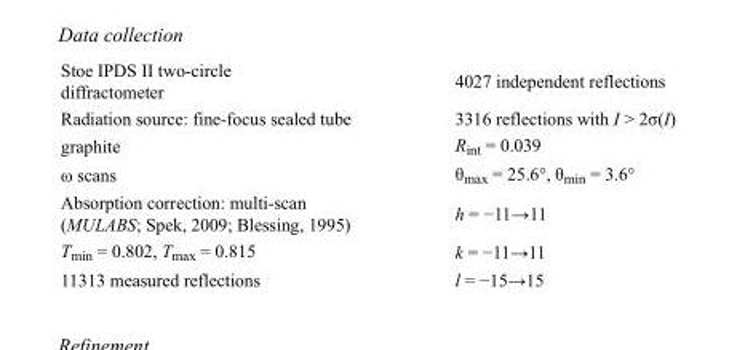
<table><tbody><tr><td>Stoe IPDS II two-circle diffractometer</td><td>4027 independent reflections</td></tr><tr><td>Radiation source: fine-focus sealed tube</td><td>3316 reflections with I &gt; 2σ(I)</td></tr><tr><td>graphite</td><td>R<sub>int</sub> = 0.039</td></tr><tr><td>ω scans</td><td>θ<sub>max</sub> = 25.6°, θ<sub>min</sub> = 3.6°</td></tr><tr><td>Absorption correction: multi-scan (MULABS; Spek, 2009; Blessing, 1995)</td><td>h = −11→11</td></tr><tr><td>T<sub>min</sub> = 0.802, T<sub>max</sub> = 0.815</td><td>k = −11→11</td></tr><tr><td>11313 measured reflections</td><td>l = −15→15</td></tr></tbody></table>